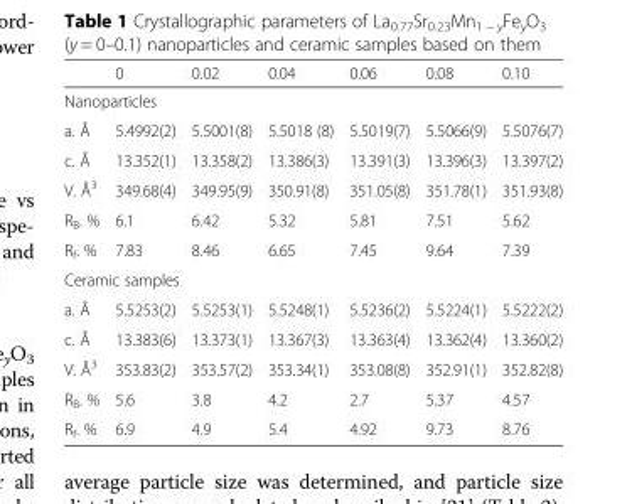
<table><thead><tr><td></td><td>0</td><td>0.02</td><td>0.04</td><td>0.06</td><td>0.08</td><td>0.10</td></tr></thead><tbody><tr><td colspan="7">Nanoparticles</td></tr><tr><td>a. Å</td><td>5.4992(2)</td><td>5.5001(8)</td><td>5.5018 (8)</td><td>5.5019(7)</td><td>5.5066(9)</td><td>5.5076(7)</td></tr><tr><td>c. Å</td><td>13.352(1)</td><td>13.358(2)</td><td>13.386(3)</td><td>13.391(3)</td><td>13.396(3)</td><td>13.397(2)</td></tr><tr><td>V. Å<sup>3</sup></td><td>349.68(4)</td><td>349.95(9)</td><td>350.91(8)</td><td>351.05(8)</td><td>351.78(1)</td><td>351.93(8)</td></tr><tr><td>R<sub>B</sub>. %</td><td>6.1</td><td>6.42</td><td>5.32</td><td>5.81</td><td>7.51</td><td>5.62</td></tr><tr><td>R<sub>f</sub>. %</td><td>7.83</td><td>8.46</td><td>6.65</td><td>7.45</td><td>9.64</td><td>7.39</td></tr><tr><td colspan="7">Ceramic samples</td></tr><tr><td>a. Å</td><td>5.5253(2)</td><td>5.5253(1)</td><td>5.5248(1)</td><td>5.5236(2)</td><td>5.5224(1)</td><td>5.5222(2)</td></tr><tr><td>c. Å</td><td>13.383(6)</td><td>13.373(1)</td><td>13.367(3)</td><td>13.363(4)</td><td>13.362(4)</td><td>13.360(2)</td></tr><tr><td>V. Å<sup>3</sup></td><td>353.83(2)</td><td>353.57(2)</td><td>353.34(1)</td><td>353.08(8)</td><td>352.91(1)</td><td>352.82(8)</td></tr><tr><td>R<sub>B</sub>. %</td><td>5.6</td><td>3.8</td><td>4.2</td><td>2.7</td><td>5.37</td><td>4.57</td></tr><tr><td>R<sub>f</sub>. %</td><td>6.9</td><td>4.9</td><td>5.4</td><td>4.92</td><td>9.73</td><td>8.76</td></tr></tbody></table>